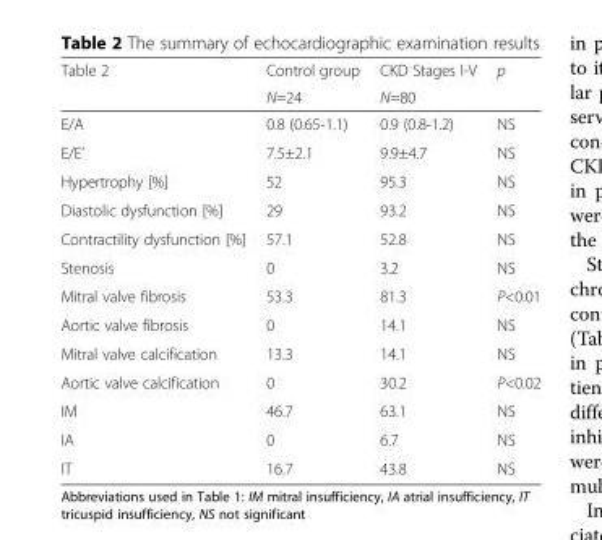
<table><thead><tr><td rowspan="2">Table 2</td><td rowspan="2">Control group N=24</td><td rowspan="2">CKD Stages I-V N=80</td><td rowspan="2">p</td></tr><tr></tr></thead><tbody><tr><td>E/A</td><td>0.8 (0.65-1.1)</td><td>0.9 (0.8-1.2)</td><td>NS</td></tr><tr><td>E/E’</td><td>7.5±2.1</td><td>9.9±4.7</td><td>NS</td></tr><tr><td>Hypertrophy [%]</td><td>52</td><td>95.3</td><td>NS</td></tr><tr><td>Diastolic dysfunction [%]</td><td>29</td><td>93.2</td><td>NS</td></tr><tr><td>Contractility dysfunction [%]</td><td>57.1</td><td>52.8</td><td>NS</td></tr><tr><td>Stenosis</td><td>0</td><td>3.2</td><td>NS</td></tr><tr><td>Mitral valve fibrosis</td><td>53.3</td><td>81.3</td><td>P&lt;0.01</td></tr><tr><td>Aortic valve fibrosis</td><td>0</td><td>14.1</td><td>NS</td></tr><tr><td>Mitral valve calcification</td><td>13.3</td><td>14.1</td><td>NS</td></tr><tr><td>Aortic valve calcification</td><td>0</td><td>30.2</td><td>P&lt;0.02</td></tr><tr><td>IM</td><td>46.7</td><td>63.1</td><td>NS</td></tr><tr><td>IA</td><td>0</td><td>6.7</td><td>NS</td></tr><tr><td>IT</td><td>16.7</td><td>43.8</td><td>NS</td></tr></tbody></table>